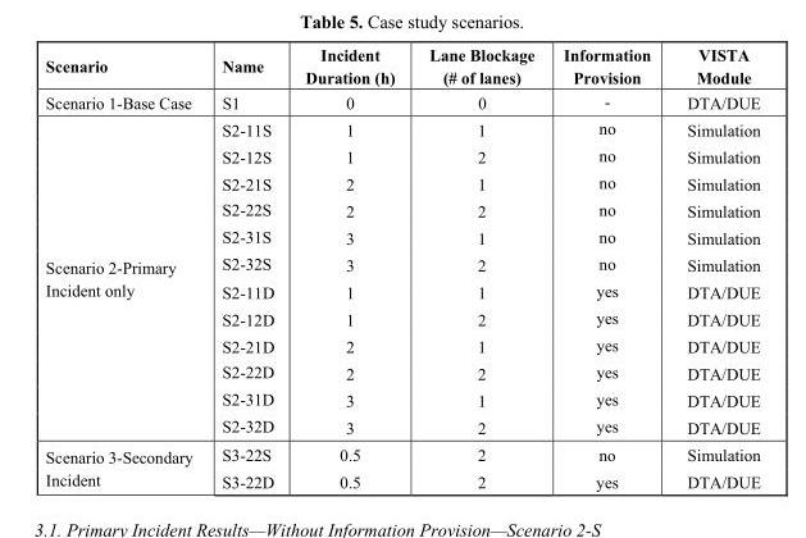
<table><thead><tr><td>Scenario</td><td>Name</td><td>Incident Duration (h)</td><td>Lane Blockage (# of lanes)</td><td>Information Provision</td><td>VISTA Module</td></tr></thead><tbody><tr><td>Scenario 1-Base Case</td><td>S1</td><td>0</td><td>0</td><td>-</td><td>DTA/DUE</td></tr><tr><td rowspan="12">Scenario 2-Primary Incident only</td><td>S2-11S</td><td>1</td><td>1</td><td>no</td><td>Simulation</td></tr><tr><td>S2-12S</td><td>1</td><td>2</td><td>no</td><td>Simulation</td></tr><tr><td>S2-21S</td><td>2</td><td>1</td><td>no</td><td>Simulation</td></tr><tr><td>S2-22S</td><td>2</td><td>2</td><td>no</td><td>Simulation</td></tr><tr><td>S2-31S</td><td>3</td><td>1</td><td>no</td><td>Simulation</td></tr><tr><td>S2-32S</td><td>3</td><td>2</td><td>no</td><td>Simulation</td></tr><tr><td>S2-11D</td><td>1</td><td>1</td><td>yes</td><td>DTA/DUE</td></tr><tr><td>S2-12D</td><td>1</td><td>2</td><td>yes</td><td>DTA/DUE</td></tr><tr><td>S2-21D</td><td>2</td><td>1</td><td>yes</td><td>DTA/DUE</td></tr><tr><td>S2-22D</td><td>2</td><td>2</td><td>yes</td><td>DTA/DUE</td></tr><tr><td>S2-31D</td><td>3</td><td>1</td><td>yes</td><td>DTA/DUE</td></tr><tr><td>S2-32D</td><td>3</td><td>2</td><td>yes</td><td>DTA/DUE</td></tr><tr><td rowspan="2">Scenario 3-Secondary Incident</td><td>S3-22S</td><td>0.5</td><td>2</td><td>no</td><td>Simulation</td></tr><tr><td>S3-22D</td><td>0.5</td><td>2</td><td>yes</td><td>DTA/DUE</td></tr></tbody></table>